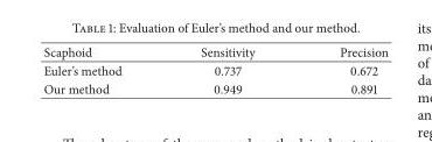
<table><thead><tr><td>Scaphoid</td><td>Sensitivity</td><td>Precision</td></tr></thead><tbody><tr><td>Euler’s method</td><td>0.737</td><td>0.672</td></tr><tr><td>Our method</td><td>0.949</td><td>0.891</td></tr></tbody></table>